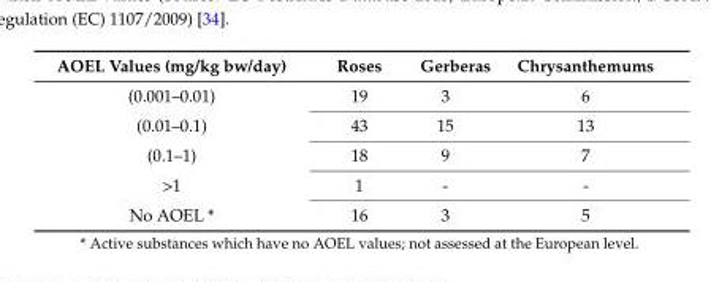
<table><thead><tr><td>AOEL Values (mg/kg bw/day)</td><td>Roses</td><td>Gerberas</td><td>Chrysanthemums</td></tr></thead><tbody><tr><td>(0.001–0.01)</td><td>19</td><td>3</td><td>6</td></tr><tr><td>(0.01–0.1)</td><td>43</td><td>15</td><td>13</td></tr><tr><td>(0.1–1)</td><td>18</td><td>9</td><td>7</td></tr><tr><td>&gt;1</td><td>1</td><td>-</td><td>-</td></tr><tr><td>No AOEL *</td><td>16</td><td>3</td><td>5</td></tr></tbody></table>